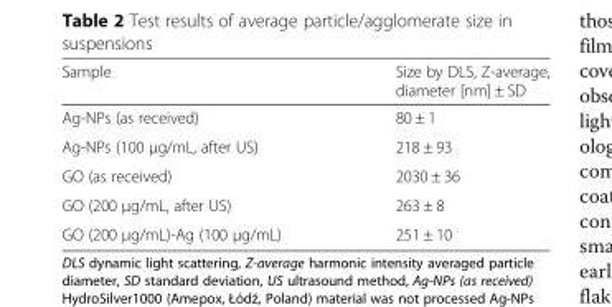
<table><thead><tr><td>Sample</td><td>Size by DLS, Z-average, diameter [nm] ± SD</td></tr></thead><tbody><tr><td>Ag-NPs (as received)</td><td>80 ± 1</td></tr><tr><td>Ag-NPs (100 μg/mL, after US)</td><td>218 ± 93</td></tr><tr><td>GO (as received)</td><td>2030 ± 36</td></tr><tr><td>GO (200 μg/mL, after US)</td><td>263 ± 8</td></tr><tr><td>GO (200 μg/mL)-Ag (100 μg/mL)</td><td>251 ± 10</td></tr></tbody></table>